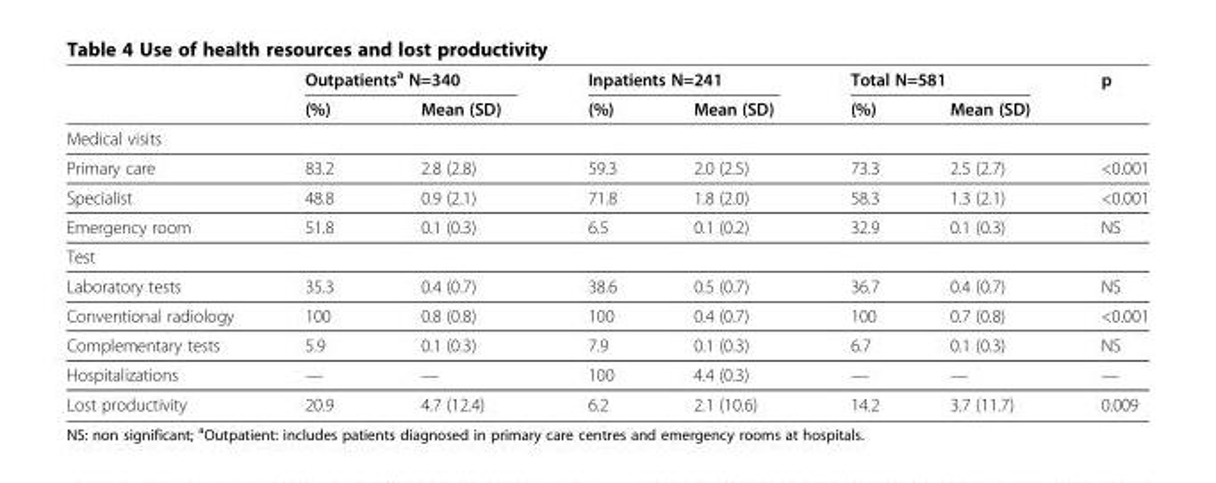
<table><thead><tr><td rowspan="2"></td><td colspan="2">Outpatients<sup>a</sup> N=340</td><td colspan="2">Inpatients N=241</td><td colspan="2">Total N=581</td><td rowspan="2">p</td></tr><tr><td>(%)</td><td>Mean (SD)</td><td>(%)</td><td>Mean (SD)</td><td>(%)</td><td>Mean (SD)</td></tr></thead><tbody><tr><td colspan="8">Medical visits</td></tr><tr><td>Primary care</td><td>83.2</td><td>2.8 (2.8)</td><td>59.3</td><td>2.0 (2.5)</td><td>73.3</td><td>2.5 (2.7)</td><td>&lt;0.001</td></tr><tr><td>Specialist</td><td>48.8</td><td>0.9 (2.1)</td><td>71.8</td><td>1.8 (2.0)</td><td>58.3</td><td>1.3 (2.1)</td><td>&lt;0.001</td></tr><tr><td>Emergency room</td><td>51.8</td><td>0.1 (0.3)</td><td>6.5</td><td>0.1 (0.2)</td><td>32.9</td><td>0.1 (0.3)</td><td>NS</td></tr><tr><td colspan="8">Test</td></tr><tr><td>Laboratory tests</td><td>35.3</td><td>0.4 (0.7)</td><td>38.6</td><td>0.5 (0.7)</td><td>36.7</td><td>0.4 (0.7)</td><td>NS</td></tr><tr><td>Conventional radiology</td><td>100</td><td>0.8 (0.8)</td><td>100</td><td>0.4 (0.7)</td><td>100</td><td>0.7 (0.8)</td><td>&lt;0.001</td></tr><tr><td>Complementary tests</td><td>5.9</td><td>0.1 (0.3)</td><td>7.9</td><td>0.1 (0.3)</td><td>6.7</td><td>0.1 (0.3)</td><td>NS</td></tr><tr><td>Hospitalizations</td><td>—</td><td>—</td><td>100</td><td>4.4 (0.3)</td><td>—</td><td>—</td><td>—</td></tr><tr><td>Lost productivity</td><td>20.9</td><td>4.7 (12.4)</td><td>6.2</td><td>2.1 (10.6)</td><td>14.2</td><td>3.7 (11.7)</td><td>0.009</td></tr></tbody></table>